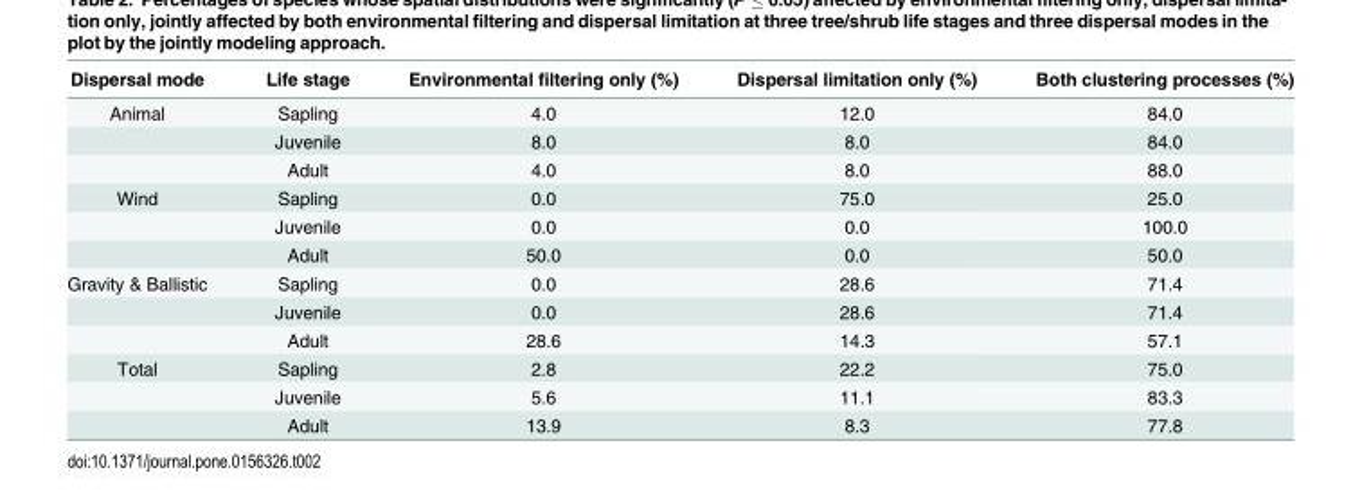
<table><thead><tr><td>Dispersal mode</td><td>Life stage</td><td>Environmental filtering only (%)</td><td>Dispersal limitation only (%)</td><td>Both clustering processes (%)</td></tr></thead><tbody><tr><td rowspan="3">Animal</td><td>Sapling</td><td>4.0</td><td>12.0</td><td>84.0</td></tr><tr><td>Juvenile</td><td>8.0</td><td>8.0</td><td>84.0</td></tr><tr><td>Adult</td><td>4.0</td><td>8.0</td><td>88.0</td></tr><tr><td rowspan="3">Wind</td><td>Sapling</td><td>0.0</td><td>75.0</td><td>25.0</td></tr><tr><td>Juvenile</td><td>0.0</td><td>0.0</td><td>100.0</td></tr><tr><td>Adult</td><td>50.0</td><td>0.0</td><td>50.0</td></tr><tr><td rowspan="3">Gravity &amp; Ballistic</td><td>Sapling</td><td>0.0</td><td>28.6</td><td>71.4</td></tr><tr><td>Juvenile</td><td>0.0</td><td>28.6</td><td>71.4</td></tr><tr><td>Adult</td><td>28.6</td><td>14.3</td><td>57.1</td></tr><tr><td rowspan="3">Total</td><td>Sapling</td><td>2.8</td><td>22.2</td><td>75.0</td></tr><tr><td>Juvenile</td><td>5.6</td><td>11.1</td><td>83.3</td></tr><tr><td>Adult</td><td>13.9</td><td>8.3</td><td>77.8</td></tr></tbody></table>